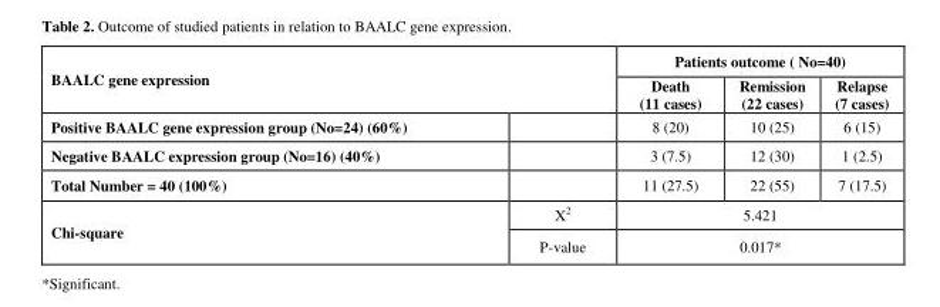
<table><thead><tr><td rowspan="2" colspan="2">BAALC gene expression</td><td rowspan="3">Patients Death (11 cases) 8 (20)</td><td colspan="2">outcome ( No=40)</td></tr><tr><td rowspan="2">Remission (22 cases) 10 (25)</td><td rowspan="2">Relapse (7 cases) 6 (15)</td></tr><tr><td>Positive BAALC gene expression group (No=24) (60%)</td><td></td></tr></thead><tbody><tr><td>Negative BAALC expression group (No=16) (40%)</td><td></td><td>3 (7.5)</td><td>12 (30)</td><td>1 (2.5)</td></tr><tr><td>Total Number = 40 (100%)</td><td></td><td>11 (27.5)</td><td>22 (55)</td><td>7 (17.5)</td></tr><tr><td rowspan="2">Chi-square</td><td>X<sup>2</sup></td><td colspan="3">5.421</td></tr><tr><td>P-value</td><td colspan="3">0.017*</td></tr></tbody></table>